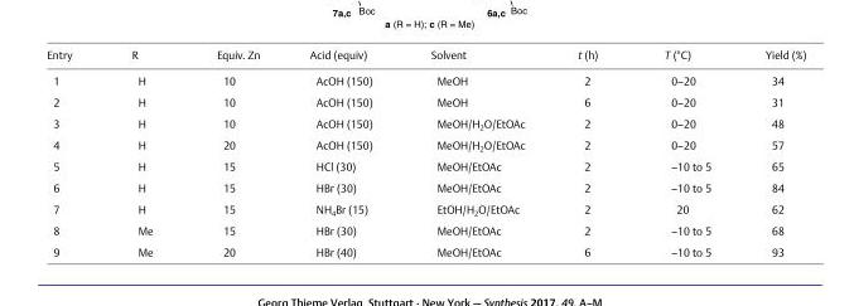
<table><thead><tr><td>Entry</td><td>R</td><td>Equiv. Zn</td><td>Acid (equiv)</td><td>Solvent</td><td>t (h)</td><td>T (°C)</td><td>Yield (%)</td></tr></thead><tbody><tr><td>1</td><td>H</td><td>10</td><td>AcOH (150)</td><td>MeOH</td><td>2</td><td>0–20</td><td>34</td></tr><tr><td>2</td><td>H</td><td>10</td><td>AcOH (150)</td><td>MeOH</td><td>6</td><td>0–20</td><td>31</td></tr><tr><td>3</td><td>H</td><td>10</td><td>AcOH (150)</td><td>MeOH/H<sub>2</sub>O/EtOAc</td><td>2</td><td>0–20</td><td>48</td></tr><tr><td>4</td><td>H</td><td>20</td><td>AcOH (150)</td><td>MeOH/H<sub>2</sub>O/EtOAc</td><td>2</td><td>0–20</td><td>57</td></tr><tr><td>5</td><td>H</td><td>15</td><td>HCl (30)</td><td>MeOH/EtOAc</td><td>2</td><td>–10 to 5</td><td>65</td></tr><tr><td>6</td><td>H</td><td>15</td><td>HBr (30)</td><td>MeOH/EtOAc</td><td>2</td><td>–10 to 5</td><td>84</td></tr><tr><td>7</td><td>H</td><td>15</td><td>NH<sub>4</sub>Br (15)</td><td>EtOH/H<sub>2</sub>O/EtOAc</td><td>2</td><td>20</td><td>62</td></tr><tr><td>8</td><td>Me</td><td>15</td><td>HBr (30)</td><td>MeOH/EtOAc</td><td>2</td><td>–10 to 5</td><td>68</td></tr><tr><td>9</td><td>Me</td><td>20</td><td>HBr (40)</td><td>MeOH/EtOAc</td><td>6</td><td>–10 to 5</td><td>93</td></tr></tbody></table>